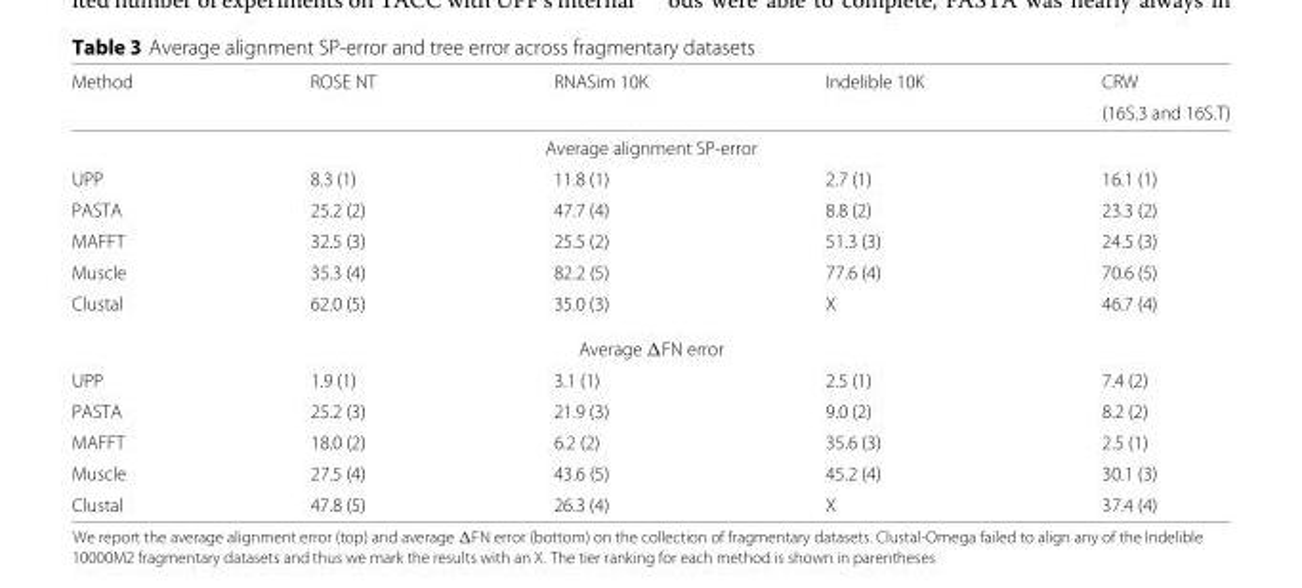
<table><thead><tr><td rowspan="2">Method</td><td rowspan="2">ROSE NT</td><td rowspan="2">RNASim 10K</td><td rowspan="2">Indelible 10K</td><td rowspan="2">CRW (16S.3 and 16S.T)</td></tr><tr></tr></thead><tbody><tr><td colspan="5">Average alignment SP-error</td></tr><tr><td>UPP</td><td>8.3 (1)</td><td>11.8 (1)</td><td>2.7 (1)</td><td>16.1 (1)</td></tr><tr><td>PASTA</td><td>25.2 (2)</td><td>47.7 (4)</td><td>8.8 (2)</td><td>23.3 (2)</td></tr><tr><td>MAFFT</td><td>32.5 (3)</td><td>25.5 (2)</td><td>51.3 (3)</td><td>24.5 (3)</td></tr><tr><td>Muscle</td><td>35.3 (4)</td><td>82.2 (5)</td><td>77.6 (4)</td><td>70.6 (5)</td></tr><tr><td>Clustal</td><td>62.0 (5)</td><td>35.0 (3)</td><td>X</td><td>46.7 (4)</td></tr><tr><td colspan="5">Average ΔFN error</td></tr><tr><td>UPP</td><td>1.9 (1)</td><td>3.1 (1)</td><td>2.5 (1)</td><td>7.4 (2)</td></tr><tr><td>PASTA</td><td>25.2 (3)</td><td>21.9 (3)</td><td>9.0 (2)</td><td>8.2 (2)</td></tr><tr><td>MAFFT</td><td>18.0 (2)</td><td>6.2 (2)</td><td>35.6 (3)</td><td>2.5 (1)</td></tr><tr><td>Muscle</td><td>27.5 (4)</td><td>43.6 (5)</td><td>45.2 (4)</td><td>30.1 (3)</td></tr><tr><td>Clustal</td><td>47.8 (5)</td><td>26.3 (4)</td><td>X</td><td>37.4 (4)</td></tr></tbody></table>